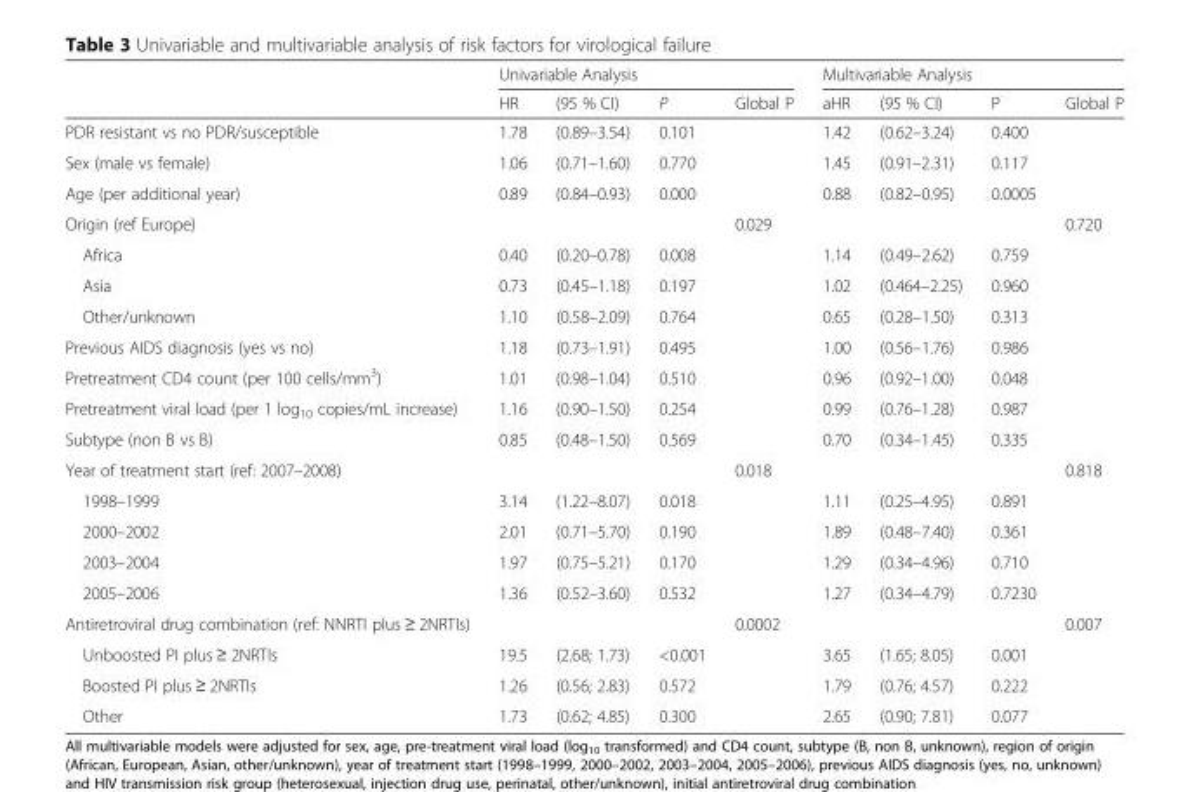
<table><thead><tr><td rowspan="2"></td><td colspan="4">Univariable Analysis</td><td colspan="4">Multivariable Analysis</td></tr><tr><td>HR</td><td>(95 % CI)</td><td>P</td><td>Global P</td><td>aHR</td><td>(95 % CI)</td><td>P</td><td>Global P</td></tr></thead><tbody><tr><td>PDR resistant vs no PDR/susceptible</td><td>1.78</td><td>(0.89–3.54)</td><td>0.101</td><td></td><td>1.42</td><td>(0.62–3.24)</td><td>0.400</td><td></td></tr><tr><td>Sex (male vs female)</td><td>1.06</td><td>(0.71–1.60)</td><td>0.770</td><td></td><td>1.45</td><td>(0.91–2.31)</td><td>0.117</td><td></td></tr><tr><td>Age (per additional year)</td><td>0.89</td><td>(0.84–0.93)</td><td>0.000</td><td></td><td>0.88</td><td>(0.82–0.95)</td><td>0.0005</td><td></td></tr><tr><td>Origin (ref Europe)</td><td></td><td></td><td></td><td>0.029</td><td></td><td></td><td></td><td>0.720</td></tr><tr><td>Africa</td><td>0.40</td><td>(0.20–0.78)</td><td>0.008</td><td></td><td>1.14</td><td>(0.49–2.62)</td><td>0.759</td><td></td></tr><tr><td>Asia</td><td>0.73</td><td>(0.45–1.18)</td><td>0.197</td><td></td><td>1.02</td><td>(0.464–2.25)</td><td>0.960</td><td></td></tr><tr><td>Other/unknown</td><td>1.10</td><td>(0.58–2.09)</td><td>0.764</td><td></td><td>0.65</td><td>(0.28–1.50)</td><td>0.313</td><td></td></tr><tr><td>Previous AIDS diagnosis (yes vs no)</td><td>1.18</td><td>(0.73–1.91)</td><td>0.495</td><td></td><td>1.00</td><td>(0.56–1.76)</td><td>0.986</td><td></td></tr><tr><td>Pretreatment CD4 count (per 100 cells/mm<sup>3</sup>)</td><td>1.01</td><td>(0.98–1.04)</td><td>0.510</td><td></td><td>0.96</td><td>(0.92–1.00)</td><td>0.048</td><td></td></tr><tr><td>Pretreatment viral load (per 1 log<sub>10</sub> copies/mL increase)</td><td>1.16</td><td>(0.90–1.50)</td><td>0.254</td><td></td><td>0.99</td><td>(0.76–1.28)</td><td>0.987</td><td></td></tr><tr><td>Subtype (non B vs B)</td><td>0.85</td><td>(0.48–1.50)</td><td>0.569</td><td></td><td>0.70</td><td>(0.34–1.45)</td><td>0.335</td><td></td></tr><tr><td>Year of treatment start (ref: 2007–2008)</td><td></td><td></td><td></td><td>0.018</td><td></td><td></td><td></td><td>0.818</td></tr><tr><td>1998–1999</td><td>3.14</td><td>(1.22–8.07)</td><td>0.018</td><td></td><td>1.11</td><td>(0.25–4.95)</td><td>0.891</td><td></td></tr><tr><td>2000–2002</td><td>2.01</td><td>(0.71–5.70)</td><td>0.190</td><td></td><td>1.89</td><td>(0.48–7.40)</td><td>0.361</td><td></td></tr><tr><td>2003–2004</td><td>1.97</td><td>(0.75–5.21)</td><td>0.170</td><td></td><td>1.29</td><td>(0.34–4.96)</td><td>0.710</td><td></td></tr><tr><td>2005–2006</td><td>1.36</td><td>(0.52–3.60)</td><td>0.532</td><td></td><td>1.27</td><td>(0.34–4.79)</td><td>0.7230</td><td></td></tr><tr><td>Antiretroviral drug combination (ref: NNRTI plus ≥ 2NRTIs)</td><td></td><td></td><td></td><td>0.0002</td><td></td><td></td><td></td><td>0.007</td></tr><tr><td>Unboosted PI plus ≥ 2NRTIs</td><td>19.5</td><td>(2.68; 1.73)</td><td>&lt;0.001</td><td></td><td>3.65</td><td>(1.65; 8.05)</td><td>0.001</td><td></td></tr><tr><td>Boosted PI plus ≥ 2NRTIs</td><td>1.26</td><td>(0.56; 2.83)</td><td>0.572</td><td></td><td>1.79</td><td>(0.76; 4.57)</td><td>0.222</td><td></td></tr><tr><td>Other</td><td>1.73</td><td>(0.62; 4.85)</td><td>0.300</td><td></td><td>2.65</td><td>(0.90; 7.81)</td><td>0.077</td><td></td></tr></tbody></table>